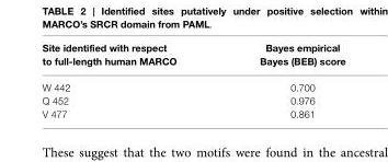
<table><thead><tr><td>Site identified with respect to full-length human MARCO</td><td>Bayes empirical Bayes (BEB) score</td></tr></thead><tbody><tr><td>W 442</td><td>0.700</td></tr><tr><td>Q 452</td><td>0.976</td></tr><tr><td>V 477</td><td>0.861</td></tr></tbody></table>